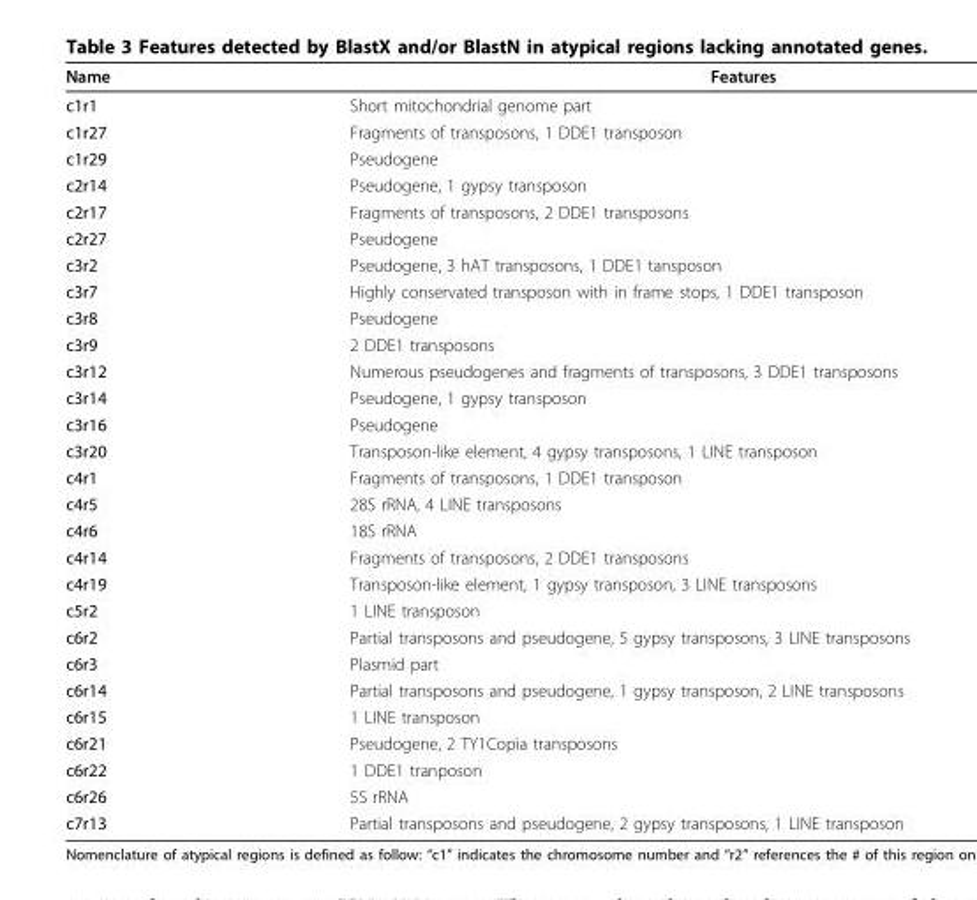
<table><thead><tr><td>Name</td><td>Features</td></tr></thead><tbody><tr><td>c1r1</td><td>Short mitochondrial genome part</td></tr><tr><td>c1r27</td><td>Fragments of transposons, 1 DDE1 transposon</td></tr><tr><td>c1r29</td><td>Pseudogene</td></tr><tr><td>c2r14</td><td>Pseudogene, 1 gypsy transposon</td></tr><tr><td>c2r17</td><td>Fragments of transposons, 2 DDE1 transposons</td></tr><tr><td>c2r27</td><td>Pseudogene</td></tr><tr><td>c3r2</td><td>Pseudogene, 3 hAT transposons, 1 DDE1 tansposon</td></tr><tr><td>c3r7</td><td>Highly conservated transposon with in frame stops, 1 DDE1 transposon</td></tr><tr><td>c3r8</td><td>Pseudogene</td></tr><tr><td>c3r9</td><td>2 DDE1 transposons</td></tr><tr><td>c3r12</td><td>Numerous pseudogenes and fragments of transposons, 3 DDE1 transposons</td></tr><tr><td>c3r14</td><td>Pseudogene, 1 gypsy transposon</td></tr><tr><td>c3r16</td><td>Pseudogene</td></tr><tr><td>c3r20</td><td>Transposon-like element, 4 gypsy transposons, 1 LINE transposon</td></tr><tr><td>c4r1</td><td>Fragments of transposons, 1 DDE1 transposon</td></tr><tr><td>c4r5</td><td>28S rRNA, 4 LINE transposons</td></tr><tr><td>c4r6</td><td>18S rRNA</td></tr><tr><td>c4r14</td><td>Fragments of transposons, 2 DDE1 transposons</td></tr><tr><td>c4r19</td><td>Transposon-like element, 1 gypsy transposon, 3 LINE transposons</td></tr><tr><td>c5r2</td><td>1 LINE transposon</td></tr><tr><td>c6r2</td><td>Partial transposons and pseudogene, 5 gypsy transposons, 3 LINE transposons</td></tr><tr><td>c6r3</td><td>Plasmid part</td></tr><tr><td>c6r14</td><td>Partial transposons and pseudogene, 1 gypsy transposon, 2 LINE transposons</td></tr><tr><td>c6r15</td><td>1 LINE transposon</td></tr><tr><td>c6r21</td><td>Pseudogene, 2 TY1Copia transposons</td></tr><tr><td>c6r22</td><td>1 DDE1 tranposon</td></tr><tr><td>c6r26</td><td>5S rRNA</td></tr><tr><td>c7r13</td><td>Partial transposons and pseudogene, 2 gypsy transposons, 1 LINE transposon</td></tr></tbody></table>